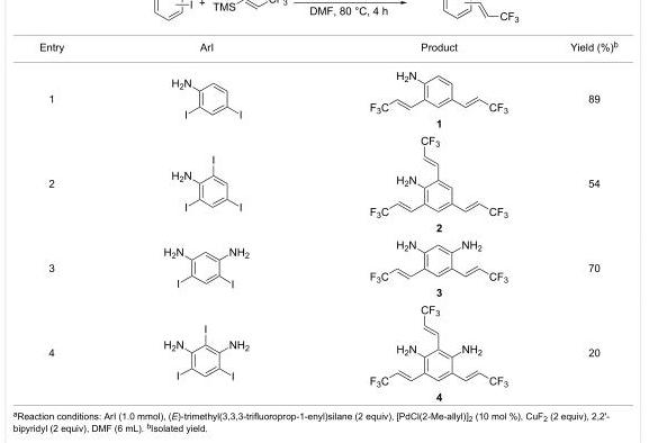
<table><tbody><tr><td>Entry</td><td>ArI</td><td>Product</td><td>Yield (%)<sup>b</sup></td></tr><tr><td>1</td><td></td><td>1</td><td>89</td></tr><tr><td>2</td><td></td><td>2</td><td>54</td></tr><tr><td>3</td><td></td><td>3</td><td>70</td></tr><tr><td>4</td><td></td><td>4</td><td>20</td></tr></tbody></table>